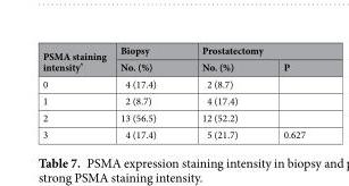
<table><thead><tr><td rowspan="2">PSMA staining intensity*</td><td rowspan="2">Biopsy No. (%)</td><td colspan="2">Prostatectomy</td></tr><tr><td>No. (%)</td><td>P</td></tr></thead><tbody><tr><td>0</td><td>4 (17.4)</td><td>2 (8.7)</td><td></td></tr><tr><td>1</td><td>2 (8.7)</td><td>4 (17.4)</td><td></td></tr><tr><td>2</td><td>13 (56.5)</td><td>12 (52.2)</td><td></td></tr><tr><td>3</td><td>4 (17.4)</td><td>5 (21.7)</td><td>0.627</td></tr></tbody></table>